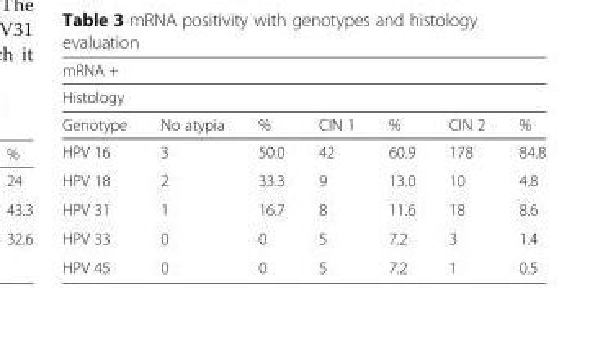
<table><thead><tr><td rowspan="2" colspan="7">mRNA + Histology</td></tr><tr></tr><tr><td>Genotype</td><td>No atypia</td><td>%</td><td>CIN 1</td><td>%</td><td>CIN 2</td><td>%</td></tr></thead><tbody><tr><td>HPV 16</td><td>3</td><td>50.0</td><td>42</td><td>60.9</td><td>178</td><td>84.8</td></tr><tr><td>HPV 18</td><td>2</td><td>33.3</td><td>9</td><td>13.0</td><td>10</td><td>4.8</td></tr><tr><td>HPV 31</td><td>1</td><td>16.7</td><td>8</td><td>11.6</td><td>18</td><td>8.6</td></tr><tr><td>HPV 33</td><td>0</td><td>0</td><td>5</td><td>7.2</td><td>3</td><td>1.4</td></tr><tr><td>HPV 45</td><td>0</td><td>0</td><td>5</td><td>7.2</td><td>1</td><td>0.5</td></tr></tbody></table>